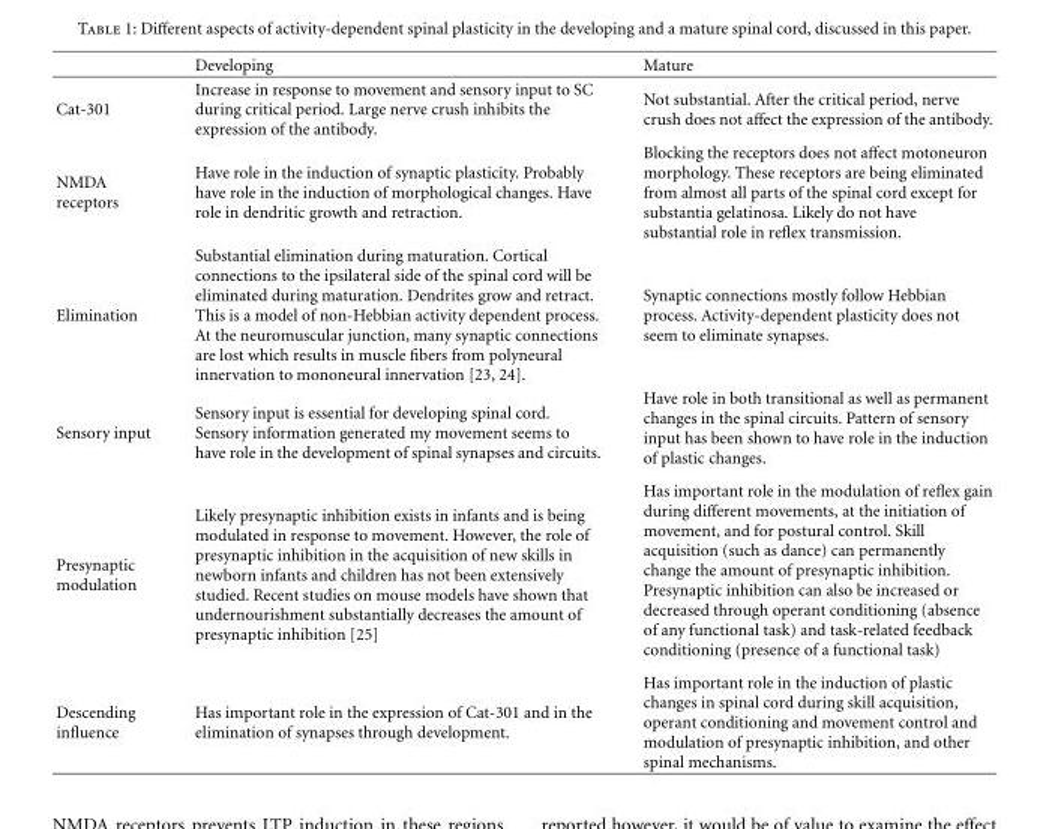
<table><thead><tr><td></td><td>Developing</td><td>Mature</td></tr></thead><tbody><tr><td>Cat-301</td><td>Increase in response to movement and sensory input to SC during critical period. Large nerve crush inhibits the expression of the antibody.</td><td>Not substantial. After the critical period, nerve crush does not affect the expression of the antibody.</td></tr><tr><td>NMDA receptors</td><td>Have role in the induction of synaptic plasticity. Probably have role in the induction of morphological changes. Have role in dendritic growth and retraction.</td><td>Blocking the receptors does not affect motoneuron morphology. These receptors are being eliminated from almost all parts of the spinal cord except for substantia gelatinosa. Likely do not have substantial role in reflex transmission.</td></tr><tr><td>Elimination</td><td>Substantial elimination during maturation. Cortical connections to the ipsilateral side of the spinal cord will be eliminated during maturation. Dendrites grow and retract. This is a model of non-Hebbian activity dependent process. At the neuromuscular junction, many synaptic connections are lost which results in muscle fibers from polyneural innervation to mononeural innervation [23, 24].</td><td>Synaptic connections mostly follow Hebbian process. Activity-dependent plasticity does not seem to eliminate synapses.</td></tr><tr><td>Sensory input</td><td>Sensory input is essential for developing spinal cord. Sensory information generated my movement seems to have role in the development of spinal synapses and circuits.</td><td>Have role in both transitional as well as permanent changes in the spinal circuits. Pattern of sensory input has been shown to have role in the induction of plastic changes.</td></tr><tr><td>Presynaptic modulation</td><td>Likely presynaptic inhibition exists in infants and is being modulated in response to movement. However, the role of presynaptic inhibition in the acquisition of new skills in newborn infants and children has not been extensively studied. Recent studies on mouse models have shown that undernourishment substantially decreases the amount of presynaptic inhibition [25]</td><td>Has important role in the modulation of reflex gain during different movements, at the initiation of movement, and for postural control. Skill acquisition (such as dance) can permanently change the amount of presynaptic inhibition. Presynaptic inhibition can also be increased or decreased through operant conditioning (absence of any functional task) and task-related feedback conditioning (presence of a functional task)</td></tr><tr><td>Descending influence</td><td>Has important role in the expression of Cat-301 and in the elimination of synapses through development.</td><td>Has important role in the induction of plastic changes in spinal cord during skill acquisition, operant conditioning and movement control and modulation of presynaptic inhibition, and other spinal mechanisms.</td></tr></tbody></table>